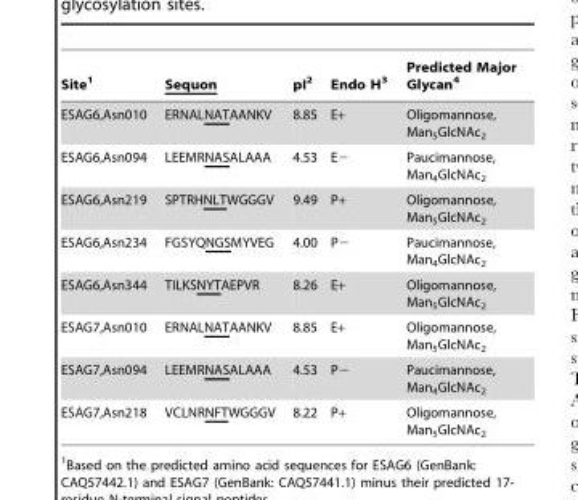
<table><thead><tr><td>Site<sup>1</sup></td><td>Sequon</td><td>pI<sup>2</sup></td><td>Endo H<sup>3</sup></td><td>Predicted Major Glycan<sup>4</sup></td></tr></thead><tbody><tr><td>ESAG6,Asn010</td><td>ERNALNATAANKV</td><td>8.85</td><td>E+</td><td>Oligomannose, Man<sub>5</sub>GlcNAc<sub>2</sub></td></tr><tr><td>ESAG6,Asn094</td><td>LEEMRNASALAAA</td><td>4.53</td><td>E−</td><td>Paucimannose, Man<sub>4</sub>GlcNAc<sub>2</sub></td></tr><tr><td>ESAG6,Asn219</td><td>SPTRHNLTWGGGV</td><td>9.49</td><td>P+</td><td>Oligomannose, Man<sub>5</sub>GlcNAc<sub>2</sub></td></tr><tr><td>ESAG6,Asn234</td><td>FGSYQNGSMYVEG</td><td>4.00</td><td>P−</td><td>Paucimannose, Man<sub>4</sub>GlcNAc<sub>2</sub></td></tr><tr><td>ESAG6,Asn344</td><td>TILKSNYTAEPVR</td><td>8.26</td><td>E+</td><td>Oligomannose, Man<sub>5</sub>GlcNAc<sub>2</sub></td></tr><tr><td>ESAG7,Asn010</td><td>ERNALNATAANKV</td><td>8.85</td><td>E+</td><td>Oligomannose, Man<sub>5</sub>GlcNAc<sub>2</sub></td></tr><tr><td>ESAG7,Asn094</td><td>LEEMRNASALAAA</td><td>4.53</td><td>P−</td><td>Paucimannose, Man<sub>4</sub>GlcNAc<sub>2</sub></td></tr><tr><td>ESAG7,Asn218</td><td>VCLNRNFTWGGGV</td><td>8.22</td><td>P+</td><td>Oligomannose, Man<sub>5</sub>GlcNAc<sub>2</sub></td></tr></tbody></table>